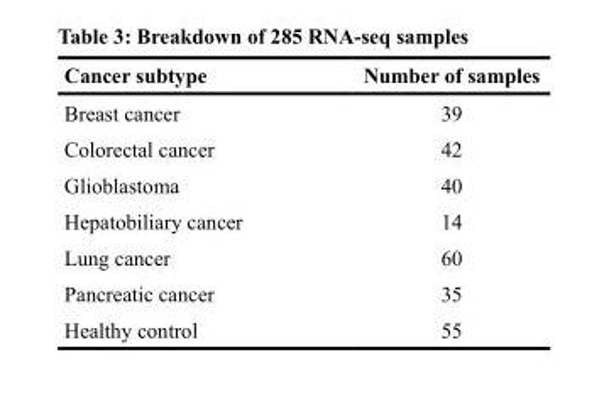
<table><thead><tr><td>Cancer subtype</td><td>Number of samples</td></tr></thead><tbody><tr><td>Breast cancer</td><td>39</td></tr><tr><td>Colorectal cancer</td><td>42</td></tr><tr><td>Glioblastoma</td><td>40</td></tr><tr><td>Hepatobiliary cancer</td><td>14</td></tr><tr><td>Lung cancer</td><td>60</td></tr><tr><td>Pancreatic cancer</td><td>35</td></tr><tr><td>Healthy control</td><td>55</td></tr></tbody></table>